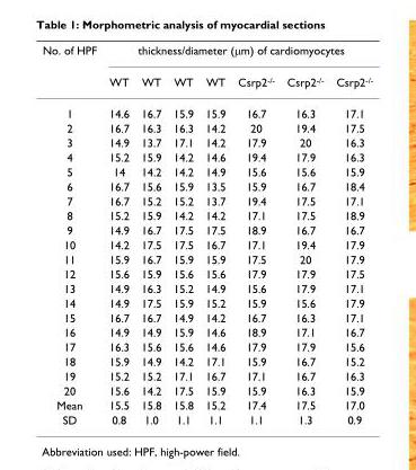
<table><thead><tr><td rowspan="2">No. of HPF</td><td colspan="7">thickness/diameter (μm) of cardiomyocytes</td></tr><tr><td>WT</td><td>WT</td><td>WT</td><td>WT</td><td>Csrp2<sup>-/-</sup></td><td>Csrp2<sup>-/-</sup></td><td>Csrp2<sup>-/-</sup></td></tr></thead><tbody><tr><td>1</td><td>14.6</td><td>16.7</td><td>15.9</td><td>15.9</td><td>16.7</td><td>16.3</td><td>17.1</td></tr><tr><td>2</td><td>16.7</td><td>16.3</td><td>16.3</td><td>14.2</td><td>20</td><td>19.4</td><td>17.5</td></tr><tr><td>3</td><td>14.9</td><td>13.7</td><td>17.1</td><td>14.2</td><td>17.9</td><td>20</td><td>16.3</td></tr><tr><td>4</td><td>15.2</td><td>15.9</td><td>14.2</td><td>14.6</td><td>19.4</td><td>17.9</td><td>16.3</td></tr><tr><td>5</td><td>14</td><td>14.2</td><td>14.2</td><td>14.9</td><td>15.6</td><td>15.6</td><td>15.9</td></tr><tr><td>6</td><td>16.7</td><td>15.6</td><td>15.9</td><td>13.5</td><td>15.9</td><td>16.7</td><td>18.4</td></tr><tr><td>7</td><td>16.7</td><td>15.2</td><td>15.2</td><td>13.7</td><td>19.4</td><td>17.5</td><td>17.1</td></tr><tr><td>8</td><td>15.2</td><td>15.9</td><td>14.2</td><td>14.2</td><td>17.1</td><td>17.5</td><td>18.9</td></tr><tr><td>9</td><td>14.9</td><td>16.7</td><td>17.5</td><td>17.5</td><td>18.9</td><td>16.7</td><td>16.7</td></tr><tr><td>10</td><td>14.2</td><td>17.5</td><td>17.5</td><td>16.7</td><td>17.1</td><td>19.4</td><td>17.9</td></tr><tr><td>11</td><td>15.9</td><td>16.7</td><td>15.9</td><td>15.9</td><td>17.5</td><td>20</td><td>17.9</td></tr><tr><td>12</td><td>15.6</td><td>15.9</td><td>15.6</td><td>15.6</td><td>17.9</td><td>17.9</td><td>17.5</td></tr><tr><td>13</td><td>14.9</td><td>16.3</td><td>15.2</td><td>14.9</td><td>15.6</td><td>17.9</td><td>17.1</td></tr><tr><td>14</td><td>14.9</td><td>17.5</td><td>15.9</td><td>15.2</td><td>15.9</td><td>15.6</td><td>17.9</td></tr><tr><td>15</td><td>16.7</td><td>16.7</td><td>14.9</td><td>14.2</td><td>16.7</td><td>16.3</td><td>17.1</td></tr><tr><td>16</td><td>14.9</td><td>14.9</td><td>15.9</td><td>14.6</td><td>18.9</td><td>17.1</td><td>16.7</td></tr><tr><td>17</td><td>16.3</td><td>15.6</td><td>15.6</td><td>14.6</td><td>17.9</td><td>17.9</td><td>15.6</td></tr><tr><td>18</td><td>15.9</td><td>14.9</td><td>14.2</td><td>17.1</td><td>15.9</td><td>16.7</td><td>15.2</td></tr><tr><td>19</td><td>15.2</td><td>15.2</td><td>17.1</td><td>16.7</td><td>17.1</td><td>16.7</td><td>16.3</td></tr><tr><td>20</td><td>15.6</td><td>14.2</td><td>17.5</td><td>15.9</td><td>15.9</td><td>16.3</td><td>15.9</td></tr><tr><td>Mean</td><td>15.5</td><td>15.8</td><td>15.8</td><td>15.2</td><td>17.4</td><td>17.5</td><td>17.0</td></tr><tr><td>SD</td><td>0.8</td><td>1.0</td><td>1.1</td><td>1.1</td><td>1.1</td><td>1.3</td><td>0.9</td></tr></tbody></table>